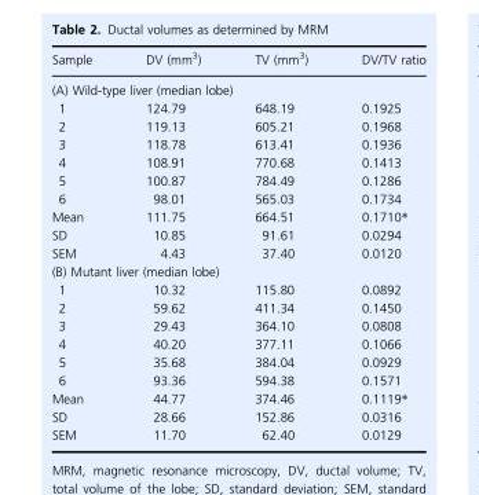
<table><thead><tr><td>Sample</td><td>DV (mm<sup>3</sup>)</td><td>TV (mm<sup>3</sup>)</td><td>DV/TV ratio</td></tr></thead><tbody><tr><td colspan="4">(A) Wild-type liver (median lobe)</td></tr><tr><td>1</td><td>124.79</td><td>648.19</td><td>0.1925</td></tr><tr><td>2</td><td>119.13</td><td>605.21</td><td>0.1968</td></tr><tr><td>3</td><td>118.78</td><td>613.41</td><td>0.1936</td></tr><tr><td>4</td><td>108.91</td><td>770.68</td><td>0.1413</td></tr><tr><td>5</td><td>100.87</td><td>784.49</td><td>0.1286</td></tr><tr><td>6</td><td>98.01</td><td>565.03</td><td>0.1734</td></tr><tr><td>Mean</td><td>111.75</td><td>664.51</td><td>0.1710*</td></tr><tr><td>SD</td><td>10.85</td><td>91.61</td><td>0.0294</td></tr><tr><td>SEM</td><td>4.43</td><td>37.40</td><td>0.0120</td></tr><tr><td colspan="4">(B) Mutant liver (median lobe)</td></tr><tr><td>1</td><td>10.32</td><td>115.80</td><td>0.0892</td></tr><tr><td>2</td><td>59.62</td><td>411.34</td><td>0.1450</td></tr><tr><td>3</td><td>29.43</td><td>364.10</td><td>0.0808</td></tr><tr><td>4</td><td>40.20</td><td>377.11</td><td>0.1066</td></tr><tr><td>5</td><td>35.68</td><td>384.04</td><td>0.0929</td></tr><tr><td>6</td><td>93.36</td><td>594.38</td><td>0.1571</td></tr><tr><td>Mean</td><td>44.77</td><td>374.46</td><td>0.1119*</td></tr><tr><td>SD</td><td>28.66</td><td>152.86</td><td>0.0316</td></tr><tr><td>SEM</td><td>11.70</td><td>62.40</td><td>0.0129</td></tr></tbody></table>